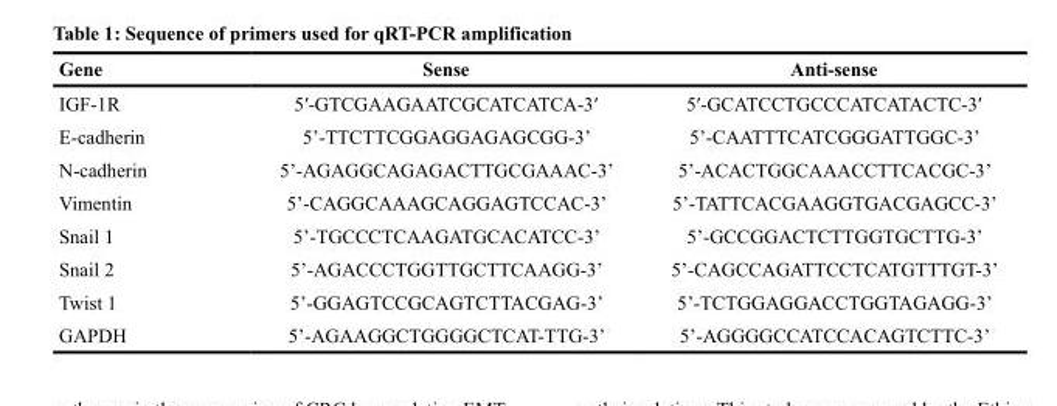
<table><thead><tr><td>Gene</td><td>Sense</td><td>Anti-sense</td></tr></thead><tbody><tr><td>IGF-1R</td><td>5′-GTCGAAGAATCGCATCATCA-3′</td><td>5′-GCATCCTGCCCATCATACTC-3′</td></tr><tr><td>E-cadherin</td><td>5’-TTCTTCGGAGGAGAGCGG-3’</td><td>5’-CAATTTCATCGGGATTGGC-3’</td></tr><tr><td>N-cadherin</td><td>5’-AGAGGCAGAGACTTGCGAAAC-3’</td><td>5’-ACACTGGCAAACCTTCACGC-3’</td></tr><tr><td>Vimentin</td><td>5’-CAGGCAAAGCAGGAGTCCAC-3’</td><td>5’-TATTCACGAAGGTGACGAGCC-3’</td></tr><tr><td>Snail 1</td><td>5’-TGCCCTCAAGATGCACATCC-3’</td><td>5’-GCCGGACTCTTGGTGCTTG-3’</td></tr><tr><td>Snail 2</td><td>5’-AGACCCTGGTTGCTTCAAGG-3’</td><td>5’-CAGCCAGATTCCTCATGTTTGT-3’</td></tr><tr><td>Twist 1</td><td>5’-GGAGTCCGCAGTCTTACGAG-3’</td><td>5’-TCTGGAGGACCTGGTAGAGG-3’</td></tr><tr><td>GAPDH</td><td>5’-AGAAGGCTGGGGCTCAT-TTG-3’</td><td>5’-AGGGGCCATCCACAGTCTTC-3’</td></tr></tbody></table>